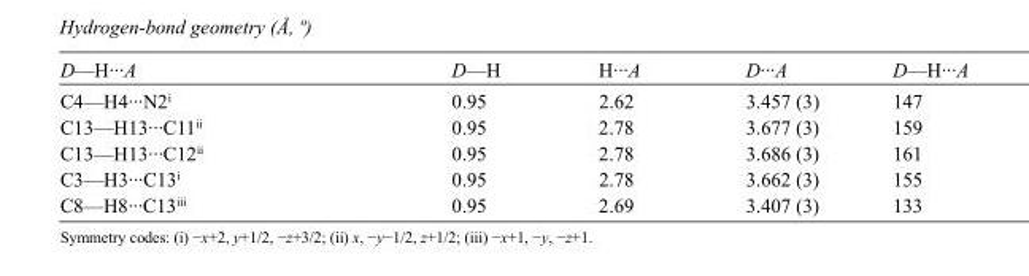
<table><tbody><tr><td>D—H···A</td><td>D—H</td><td>H···A</td><td>D···A</td><td>D—H···A</td></tr><tr><td>C4—H4···N2<sup>i</sup></td><td>0.95</td><td>2.62</td><td>3.457 (3)</td><td>147</td></tr><tr><td>C13—H13···C11<sup>ii</sup></td><td>0.95</td><td>2.78</td><td>3.677 (3)</td><td>159</td></tr><tr><td>C13—H13···C12<sup>ii</sup></td><td>0.95</td><td>2.78</td><td>3.686 (3)</td><td>161</td></tr><tr><td>C3—H3···C13<sup>i</sup></td><td>0.95</td><td>2.78</td><td>3.662 (3)</td><td>155</td></tr><tr><td>C8—H8···C13<sup>iii</sup></td><td>0.95</td><td>2.69</td><td>3.407 (3)</td><td>133</td></tr></tbody></table>